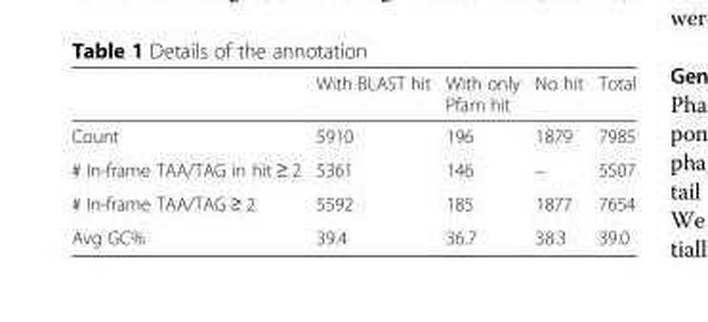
<table><thead><tr><td></td><td>With BLAST hit</td><td>With only Pfam hit</td><td>No hit</td><td>Total</td></tr></thead><tbody><tr><td>Count</td><td>5910</td><td>196</td><td>1879</td><td>7985</td></tr><tr><td># In-frame TAA/TAG in hit ≥ 2</td><td>5361</td><td>146</td><td>–</td><td>5507</td></tr><tr><td># In-frame TAA/TAG ≥ 2</td><td>5592</td><td>185</td><td>1877</td><td>7654</td></tr><tr><td>Avg GC%</td><td>39.4</td><td>36.7</td><td>38.3</td><td>39.0</td></tr></tbody></table>